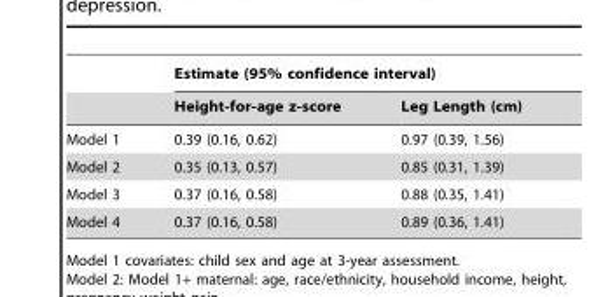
<table><thead><tr><td rowspan="2"></td><td colspan="2">Estimate (95% confidence interval)</td></tr><tr><td>Height-for-age z-score</td><td>Leg Length (cm)</td></tr></thead><tbody><tr><td>Model 1</td><td>0.39 (0.16, 0.62)</td><td>0.97 (0.39, 1.56)</td></tr><tr><td>Model 2</td><td>0.35 (0.13, 0.57)</td><td>0.85 (0.31, 1.39)</td></tr><tr><td>Model 3</td><td>0.37 (0.16, 0.58)</td><td>0.88 (0.35, 1.41)</td></tr><tr><td>Model 4</td><td>0.37 (0.16, 0.58)</td><td>0.89 (0.36, 1.41)</td></tr></tbody></table>